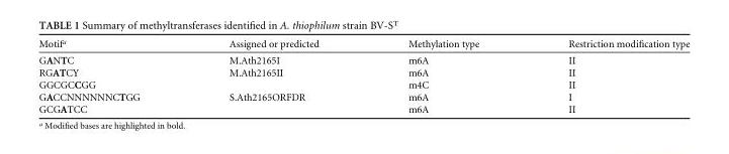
<table><thead><tr><td>Motif<sup>a</sup></td><td>Assigned or predicted</td><td>Methylation type</td><td>Restriction modification type</td></tr></thead><tbody><tr><td>GANTC</td><td>M.Ath2165I</td><td>m6A</td><td>II</td></tr><tr><td>RGATCY</td><td>M.Ath2165II</td><td>m6A</td><td>II</td></tr><tr><td>GGCGCCGG</td><td></td><td>m4C</td><td>II</td></tr><tr><td>GACCNNNNNNCTGG</td><td>S.Ath2165ORFDR</td><td>m6A</td><td>I</td></tr><tr><td>GCGATCC</td><td></td><td>m6A</td><td>II</td></tr></tbody></table>